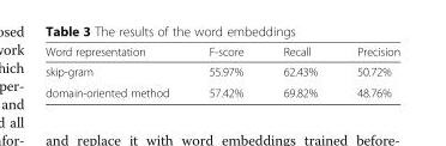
<table><thead><tr><td>Word representation</td><td>F-score</td><td>Recall</td><td>Precision</td></tr></thead><tbody><tr><td>skip-gram</td><td>55.97%</td><td>62.43%</td><td>50.72%</td></tr><tr><td>domain-oriented method</td><td>57.42%</td><td>69.82%</td><td>48.76%</td></tr></tbody></table>